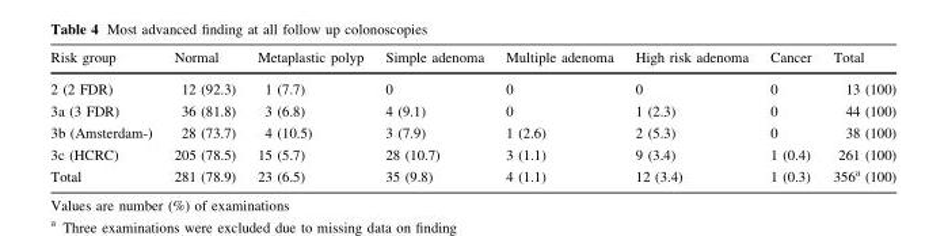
<table><thead><tr><td>Risk group</td><td>Normal</td><td>Metaplastic polyp</td><td>Simple adenoma</td><td>Multiple adenoma</td><td>High risk adenoma</td><td>Cancer</td><td>Total</td></tr></thead><tbody><tr><td>2 (2 FDR)</td><td>12 (92.3)</td><td>1 (7.7)</td><td>0</td><td>0</td><td>0</td><td>0</td><td>13 (100)</td></tr><tr><td>3a (3 FDR)</td><td>36 (81.8)</td><td>3 (6.8)</td><td>4 (9.1)</td><td>0</td><td>1 (2.3)</td><td>0</td><td>44 (100)</td></tr><tr><td>3b (Amsterdam-)</td><td>28 (73.7)</td><td>4 (10.5)</td><td>3 (7.9)</td><td>1 (2.6)</td><td>2 (5.3)</td><td>0</td><td>38 (100)</td></tr><tr><td>3c (HCRC)</td><td>205 (78.5)</td><td>15 (5.7)</td><td>28 (10.7)</td><td>3 (1.1)</td><td>9 (3.4)</td><td>1 (0.4)</td><td>261 (100)</td></tr><tr><td>Total</td><td>281 (78.9)</td><td>23 (6.5)</td><td>35 (9.8)</td><td>4 (1.1)</td><td>12 (3.4)</td><td>1 (0.3)</td><td>356<sup>a</sup> (100)</td></tr></tbody></table>